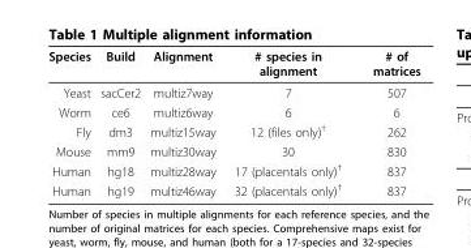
<table><thead><tr><td>Species</td><td>Build</td><td>Alignment</td><td># species in alignment</td><td># of matrices</td></tr></thead><tbody><tr><td>Yeast</td><td>sacCer2</td><td>multiz7way</td><td>7</td><td>507</td></tr><tr><td>Worm</td><td>ce6</td><td>multiz6way</td><td>6</td><td>6</td></tr><tr><td>Fly</td><td>dm3</td><td>multiz15way</td><td>12 (files only)<sup>†</sup></td><td>262</td></tr><tr><td>Mouse</td><td>mm9</td><td>multiz30way</td><td>30</td><td>830</td></tr><tr><td>Human</td><td>hg18</td><td>multiz28way</td><td>17 (placentals only)<sup>†</sup></td><td>837</td></tr><tr><td>Human</td><td>hg19</td><td>multiz46way</td><td>32 (placentals only)<sup>†</sup></td><td>837</td></tr></tbody></table>